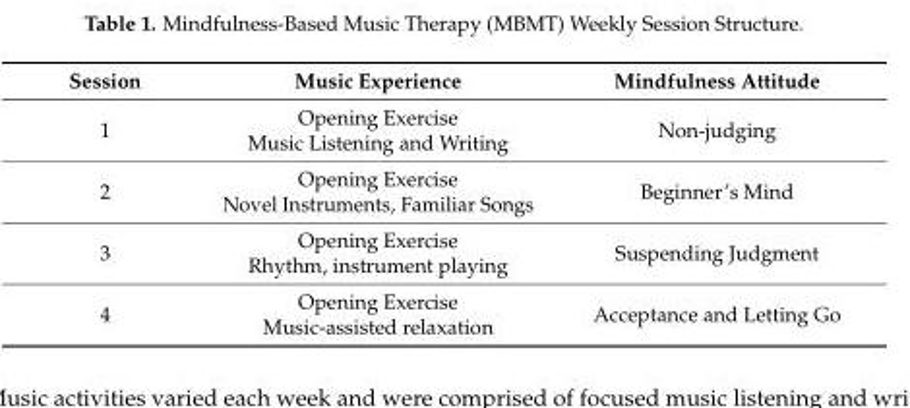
<table><thead><tr><td>Session</td><td>Music Experience</td><td>Mindfulness Attitude</td></tr></thead><tbody><tr><td>1</td><td>Opening Exercise Music Listening and Writing</td><td>Non-judging</td></tr><tr><td>2</td><td>Opening Exercise Novel Instruments, Familiar Songs</td><td>Beginner’s Mind</td></tr><tr><td>3</td><td>Opening Exercise Rhythm, instrument playing</td><td>Suspending Judgment</td></tr><tr><td>4</td><td>Opening Exercise Music-assisted relaxation</td><td>Acceptance and Letting Go</td></tr></tbody></table>